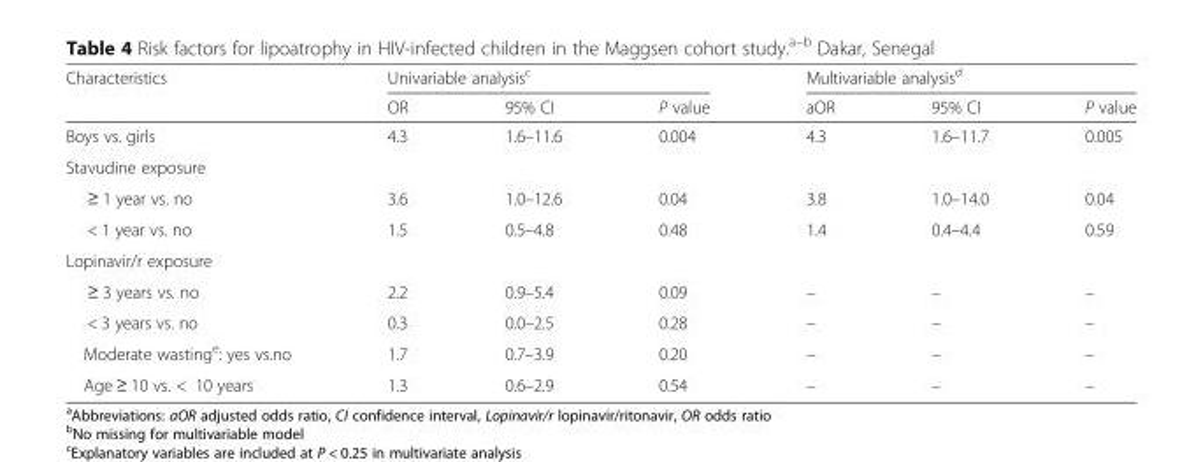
<table><thead><tr><td rowspan="2">Characteristics</td><td colspan="3">Univariable analysis<sup>c</sup></td><td colspan="3">Multivariable analysis<sup>d</sup></td></tr><tr><td>OR</td><td>95% CI</td><td>P value</td><td>aOR</td><td>95% CI</td><td>P value</td></tr></thead><tbody><tr><td>Boys vs. girls</td><td>4.3</td><td>1.6–11.6</td><td>0.004</td><td>4.3</td><td>1.6–11.7</td><td>0.005</td></tr><tr><td colspan="7">Stavudine exposure</td></tr><tr><td>≥ 1 year vs. no</td><td>3.6</td><td>1.0–12.6</td><td>0.04</td><td>3.8</td><td>1.0–14.0</td><td>0.04</td></tr><tr><td>&lt; 1 year vs. no</td><td>1.5</td><td>0.5–4.8</td><td>0.48</td><td>1.4</td><td>0.4–4.4</td><td>0.59</td></tr><tr><td colspan="7">Lopinavir/r exposure</td></tr><tr><td>≥ 3 years vs. no</td><td>2.2</td><td>0.9–5.4</td><td>0.09</td><td>–</td><td>–</td><td>–</td></tr><tr><td>&lt; 3 years vs. no</td><td>0.3</td><td>0.0–2.5</td><td>0.28</td><td>–</td><td>–</td><td>–</td></tr><tr><td>Moderate wasting<sup>e</sup>: yes vs.no</td><td>1.7</td><td>0.7–3.9</td><td>0.20</td><td>–</td><td>–</td><td>–</td></tr><tr><td>Age ≥ 10 vs. &lt; 10 years</td><td>1.3</td><td>0.6–2.9</td><td>0.54</td><td>–</td><td>–</td><td>–</td></tr></tbody></table>